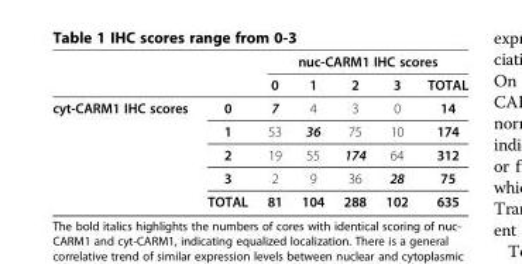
<table><thead><tr><td rowspan="2"></td><td rowspan="2"></td><td colspan="5">nuc-CARM1 IHC scores</td></tr><tr><td>0</td><td>1</td><td>2</td><td>3</td><td>TOTAL</td></tr></thead><tbody><tr><td rowspan="5">cyt-CARM1 IHC scores</td><td>0</td><td>7</td><td>4</td><td>3</td><td>0</td><td>14</td></tr><tr><td>1</td><td>53</td><td>36</td><td>75</td><td>10</td><td>174</td></tr><tr><td>2</td><td>19</td><td>55</td><td>174</td><td>64</td><td>312</td></tr><tr><td>3</td><td>2</td><td>9</td><td>36</td><td>28</td><td>75</td></tr><tr><td>TOTAL</td><td>81</td><td>104</td><td>288</td><td>102</td><td>635</td></tr></tbody></table>